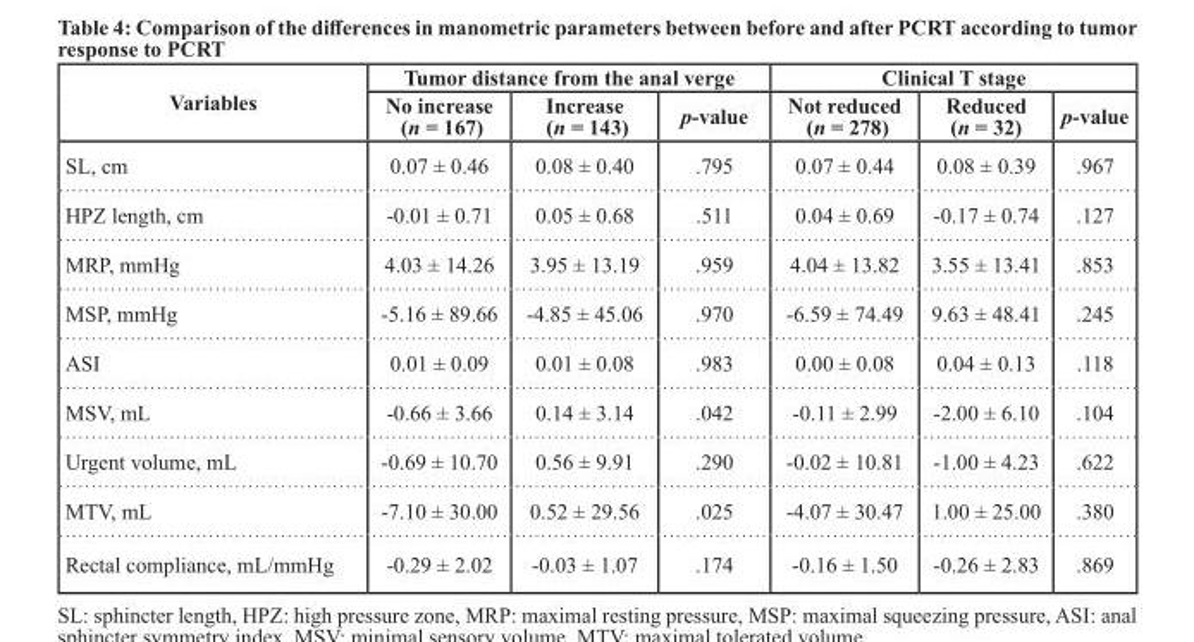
<table><thead><tr><td rowspan="2">Variables</td><td colspan="3">Tumor distance from the anal verge</td><td colspan="3">Clinical T stage</td></tr><tr><td>No increase (n = 167)</td><td>Increase (n = 143)</td><td>p-value</td><td>Not reduced (n = 278)</td><td>Reduced (n = 32)</td><td>p-value</td></tr></thead><tbody><tr><td>SL, cm</td><td>0.07 ± 0.46</td><td>0.08 ± 0.40</td><td>.795</td><td>0.07 ± 0.44</td><td>0.08 ± 0.39</td><td>.967</td></tr><tr><td>HPZ length, cm</td><td>-0.01 ± 0.71</td><td>0.05 ± 0.68</td><td>.511</td><td>0.04 ± 0.69</td><td>-0.17 ± 0.74</td><td>.127</td></tr><tr><td>MRP, mmHg</td><td>4.03 ± 14.26</td><td>3.95 ± 13.19</td><td>.959</td><td>4.04 ± 13.82</td><td>3.55 ± 13.41</td><td>.853</td></tr><tr><td>MSP, mmHg</td><td>-5.16 ± 89.66</td><td>-4.85 ± 45.06</td><td>.970</td><td>-6.59 ± 74.49</td><td>9.63 ± 48.41</td><td>.245</td></tr><tr><td>ASI</td><td>0.01 ± 0.09</td><td>0.01 ± 0.08</td><td>.983</td><td>0.00 ± 0.08</td><td>0.04 ± 0.13</td><td>.118</td></tr><tr><td>MSV, mL</td><td>-0.66 ± 3.66</td><td>0.14 ± 3.14</td><td>.042</td><td>-0.11 ± 2.99</td><td>-2.00 ± 6.10</td><td>.104</td></tr><tr><td>Urgent volume, mL</td><td>-0.69 ± 10.70</td><td>0.56 ± 9.91</td><td>.290</td><td>-0.02 ± 10.81</td><td>-1.00 ± 4.23</td><td>.622</td></tr><tr><td>MTV, mL</td><td>-7.10 ± 30.00</td><td>0.52 ± 29.56</td><td>.025</td><td>-4.07 ± 30.47</td><td>1.00 ± 25.00</td><td>.380</td></tr><tr><td>Rectal compliance, mL/mmHg</td><td>-0.29 ± 2.02</td><td>-0.03 ± 1.07</td><td>.174</td><td>-0.16 ± 1.50</td><td>-0.26 ± 2.83</td><td>.869</td></tr></tbody></table>